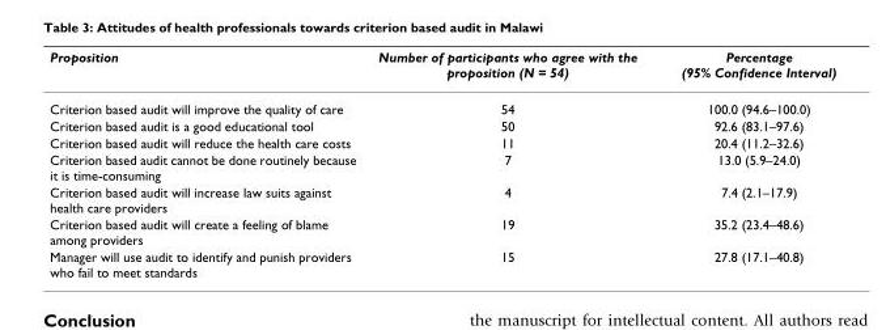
<table><thead><tr><td>Proposition</td><td>Number of participants who agree with the proposition (N = 54)</td><td>Percentage (95% Confidence Interval)</td></tr></thead><tbody><tr><td>Criterion based audit will improve the quality of care</td><td>54</td><td>100.0 (94.6–100.0)</td></tr><tr><td>Criterion based audit is a good educational tool</td><td>50</td><td>92.6 (83.1–97.6)</td></tr><tr><td>Criterion based audit will reduce the health care costs</td><td>11</td><td>20.4 (11.2–32.6)</td></tr><tr><td>Criterion based audit cannot be done routinely because it is time-consuming</td><td>7</td><td>13.0 (5.9–24.0)</td></tr><tr><td>Criterion based audit will increase law suits against health care providers</td><td>4</td><td>7.4 (2.1–17.9)</td></tr><tr><td>Criterion based audit will create a feeling of blame among providers</td><td>19</td><td>35.2 (23.4–48.6)</td></tr><tr><td>Manager will use audit to identify and punish providers who fail to meet standards</td><td>15</td><td>27.8 (17.1–40.8)</td></tr></tbody></table>